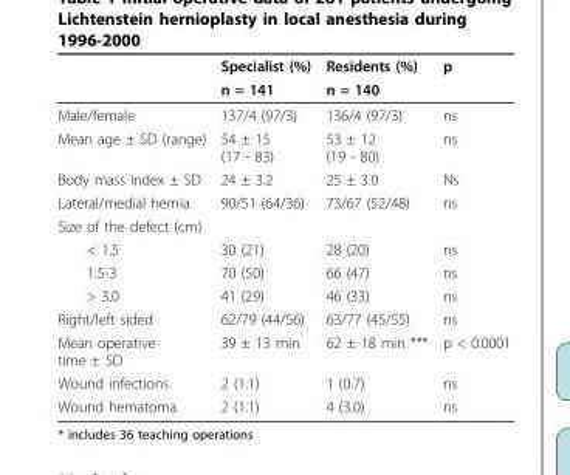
<table><thead><tr><td rowspan="2"></td><td rowspan="2">Specialist (%) n = 141</td><td rowspan="2">Residents (%) n = 140</td><td rowspan="2">p</td></tr><tr></tr></thead><tbody><tr><td>Male/female</td><td>137/4 (97/3)</td><td>136/4 (97/3)</td><td>ns</td></tr><tr><td>Mean age ± SD (range)</td><td>54 ± 15 (17 - 83)</td><td>53 ± 12 (19 - 80)</td><td>ns</td></tr><tr><td>Body mass index ± SD</td><td>24 ± 3.2</td><td>25 ± 3.0</td><td>Ns</td></tr><tr><td>Lateral/medial hernia</td><td>90/51 (64/36)</td><td>73/67 (52/48)</td><td>ns</td></tr><tr><td colspan="4">Size of the defect (cm)</td></tr><tr><td>&lt; 1.5</td><td>30 (21)</td><td>28 (20)</td><td>ns</td></tr><tr><td>1.5-3</td><td>70 (50)</td><td>66 (47)</td><td>ns</td></tr><tr><td>&gt; 3.0</td><td>41 (29)</td><td>46 (33)</td><td>ns</td></tr><tr><td>Right/left sided</td><td>62/79 (44/56)</td><td>63/77 (45/55)</td><td>ns</td></tr><tr><td>Mean operative time ± SD</td><td>39 ± 13 min</td><td>62 ± 18 min ***</td><td>p &lt; 0.0001</td></tr><tr><td>Wound infections</td><td>2 (1.1)</td><td>1 (0.7)</td><td>ns</td></tr><tr><td>Wound hematoma</td><td>2 (1.1)</td><td>4 (3.0)</td><td>ns</td></tr></tbody></table>